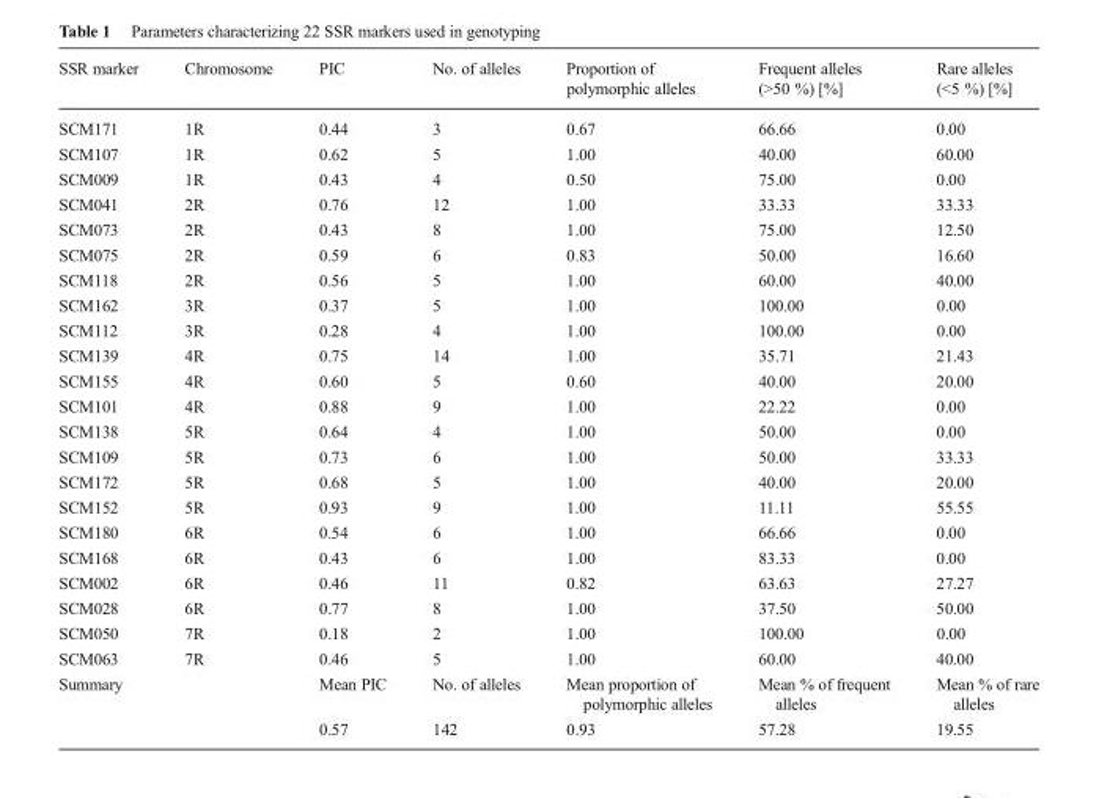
<table><thead><tr><td>SSR marker</td><td>Chromosome</td><td>PIC</td><td>No. of alleles</td><td>Proportion of polymorphic alleles</td><td>Frequent alleles (&gt;50 %) [%]</td><td>Rare alleles (&lt;5 %) [%]</td></tr></thead><tbody><tr><td>SCM171</td><td>1R</td><td>0.44</td><td>3</td><td>0.67</td><td>66.66</td><td>0.00</td></tr><tr><td>SCM107</td><td>1R</td><td>0.62</td><td>5</td><td>1.00</td><td>40.00</td><td>60.00</td></tr><tr><td>SCM009</td><td>1R</td><td>0.43</td><td>4</td><td>0.50</td><td>75.00</td><td>0.00</td></tr><tr><td>SCM041</td><td>2R</td><td>0.76</td><td>12</td><td>1.00</td><td>33.33</td><td>33.33</td></tr><tr><td>SCM073</td><td>2R</td><td>0.43</td><td>8</td><td>1.00</td><td>75.00</td><td>12.50</td></tr><tr><td>SCM075</td><td>2R</td><td>0.59</td><td>6</td><td>0.83</td><td>50.00</td><td>16.60</td></tr><tr><td>SCM118</td><td>2R</td><td>0.56</td><td>5</td><td>1.00</td><td>60.00</td><td>40.00</td></tr><tr><td>SCM162</td><td>3R</td><td>0.37</td><td>5</td><td>1.00</td><td>100.00</td><td>0.00</td></tr><tr><td>SCM112</td><td>3R</td><td>0.28</td><td>4</td><td>1.00</td><td>100.00</td><td>0.00</td></tr><tr><td>SCM139</td><td>4R</td><td>0.75</td><td>14</td><td>1.00</td><td>35.71</td><td>21.43</td></tr><tr><td>SCM155</td><td>4R</td><td>0.60</td><td>5</td><td>0.60</td><td>40.00</td><td>20.00</td></tr><tr><td>SCM101</td><td>4R</td><td>0.88</td><td>9</td><td>1.00</td><td>22.22</td><td>0.00</td></tr><tr><td>SCM138</td><td>5R</td><td>0.64</td><td>4</td><td>1.00</td><td>50.00</td><td>0.00</td></tr><tr><td>SCM109</td><td>5R</td><td>0.73</td><td>6</td><td>1.00</td><td>50.00</td><td>33.33</td></tr><tr><td>SCM172</td><td>5R</td><td>0.68</td><td>5</td><td>1.00</td><td>40.00</td><td>20.00</td></tr><tr><td>SCM152</td><td>5R</td><td>0.93</td><td>9</td><td>1.00</td><td>11.11</td><td>55.55</td></tr><tr><td>SCM180</td><td>6R</td><td>0.54</td><td>6</td><td>1.00</td><td>66.66</td><td>0.00</td></tr><tr><td>SCM168</td><td>6R</td><td>0.43</td><td>6</td><td>1.00</td><td>83.33</td><td>0.00</td></tr><tr><td>SCM002</td><td>6R</td><td>0.46</td><td>11</td><td>0.82</td><td>63.63</td><td>27.27</td></tr><tr><td>SCM028</td><td>6R</td><td>0.77</td><td>8</td><td>1.00</td><td>37.50</td><td>50.00</td></tr><tr><td>SCM050</td><td>7R</td><td>0.18</td><td>2</td><td>1.00</td><td>100.00</td><td>0.00</td></tr><tr><td>SCM063</td><td>7R</td><td>0.46</td><td>5</td><td>1.00</td><td>60.00</td><td>40.00</td></tr><tr><td rowspan="2" colspan="2">Summary</td><td>Mean PIC</td><td>No. of alleles</td><td>Mean proportion of polymorphic alleles</td><td>Mean % of frequent alleles</td><td>Mean % of rare alleles</td></tr><tr><td>0.57</td><td>142</td><td>0.93</td><td>57.28</td><td>19.55</td></tr></tbody></table>